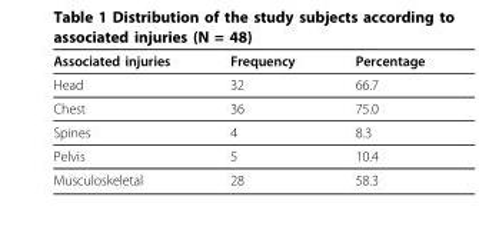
<table><thead><tr><td>Associated injuries</td><td>Frequency</td><td>Percentage</td></tr></thead><tbody><tr><td>Head</td><td>32</td><td>66.7</td></tr><tr><td>Chest</td><td>36</td><td>75.0</td></tr><tr><td>Spines</td><td>4</td><td>8.3</td></tr><tr><td>Pelvis</td><td>5</td><td>10.4</td></tr><tr><td>Musculoskeletal</td><td>28</td><td>58.3</td></tr></tbody></table>